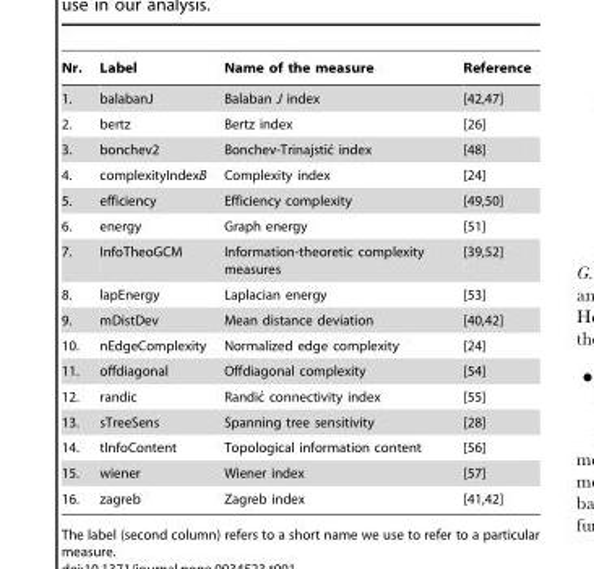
<table><thead><tr><td>Nr.</td><td>Label</td><td>Name of the measure</td><td>Reference</td></tr></thead><tbody><tr><td>1.</td><td>balabanJ</td><td>Balaban J index</td><td>[42,47]</td></tr><tr><td>2.</td><td>bertz</td><td>Bertz index</td><td>[26]</td></tr><tr><td>3.</td><td>bonchev2</td><td>Bonchev-Trinajstic´ index</td><td>[48]</td></tr><tr><td>4.</td><td>complexityIndexB</td><td>Complexity index</td><td>[24]</td></tr><tr><td>5.</td><td>efficiency</td><td>Efficiency complexity</td><td>[49,50]</td></tr><tr><td>6.</td><td>energy</td><td>Graph energy</td><td>[51]</td></tr><tr><td>7.</td><td>InfoTheoGCM</td><td>Information-theoretic complexity measures</td><td>[39,52]</td></tr><tr><td>8.</td><td>lapEnergy</td><td>Laplacian energy</td><td>[53]</td></tr><tr><td>9.</td><td>mDistDev</td><td>Mean distance deviation</td><td>[40,42]</td></tr><tr><td>10.</td><td>nEdgeComplexity</td><td>Normalized edge complexity</td><td>[24]</td></tr><tr><td>11.</td><td>offdiagonal</td><td>Offdiagonal complexity</td><td>[54]</td></tr><tr><td>12.</td><td>randic</td><td>Randic´ connectivity index</td><td>[55]</td></tr><tr><td>13.</td><td>sTreeSens</td><td>Spanning tree sensitivity</td><td>[28]</td></tr><tr><td>14.</td><td>tInfoContent</td><td>Topological information content</td><td>[56]</td></tr><tr><td>15.</td><td>wiener</td><td>Wiener index</td><td>[57]</td></tr><tr><td>16.</td><td>zagreb</td><td>Zagreb index</td><td>[41,42]</td></tr></tbody></table>